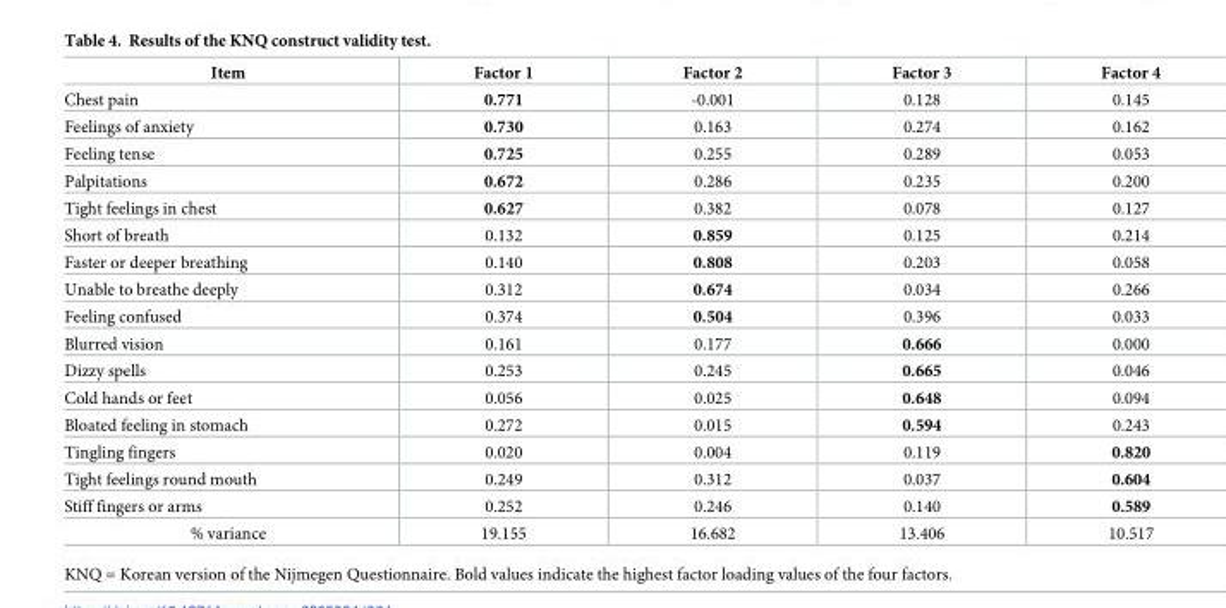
<table><thead><tr><td>Item</td><td>Factor 1</td><td>Factor 2</td><td>Factor 3</td><td>Factor 4</td></tr></thead><tbody><tr><td>Chest pain</td><td>0.771</td><td>-0.001</td><td>0.128</td><td>0.145</td></tr><tr><td>Feelings of anxiety</td><td>0.730</td><td>0.163</td><td>0.274</td><td>0.162</td></tr><tr><td>Feeling tense</td><td>0.725</td><td>0.255</td><td>0.289</td><td>0.053</td></tr><tr><td>Palpitations</td><td>0.672</td><td>0.286</td><td>0.235</td><td>0.200</td></tr><tr><td>Tight feelings in chest</td><td>0.627</td><td>0.382</td><td>0.078</td><td>0.127</td></tr><tr><td>Short of breath</td><td>0.132</td><td>0.859</td><td>0.125</td><td>0.214</td></tr><tr><td>Faster or deeper breathing</td><td>0.140</td><td>0.808</td><td>0.203</td><td>0.058</td></tr><tr><td>Unable to breathe deeply</td><td>0.312</td><td>0.674</td><td>0.034</td><td>0.266</td></tr><tr><td>Feeling confused</td><td>0.374</td><td>0.504</td><td>0.396</td><td>0.033</td></tr><tr><td>Blurred vision</td><td>0.161</td><td>0.177</td><td>0.666</td><td>0.000</td></tr><tr><td>Dizzy spells</td><td>0.253</td><td>0.245</td><td>0.665</td><td>0.046</td></tr><tr><td>Cold hands or feet</td><td>0.056</td><td>0.025</td><td>0.648</td><td>0.094</td></tr><tr><td>Bloated feeling in stomach</td><td>0.272</td><td>0.015</td><td>0.594</td><td>0.243</td></tr><tr><td>Tingling fingers</td><td>0.020</td><td>0.004</td><td>0.119</td><td>0.820</td></tr><tr><td>Tight feelings round mouth</td><td>0.249</td><td>0.312</td><td>0.037</td><td>0.604</td></tr><tr><td>Stiff fingers or arms</td><td>0.252</td><td>0.246</td><td>0.140</td><td>0.589</td></tr><tr><td>% variance</td><td>19.155</td><td>16.682</td><td>13.406</td><td>10.517</td></tr></tbody></table>